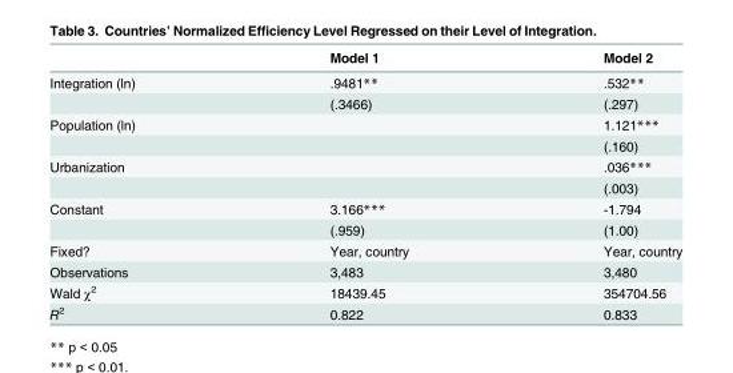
<table><thead><tr><td></td><td>Model 1</td><td>Model 2</td></tr></thead><tbody><tr><td rowspan="2">Integration (ln)</td><td>.9481**</td><td>.532**</td></tr><tr><td>(.3466)</td><td>(.297)</td></tr><tr><td rowspan="2">Population (ln)</td><td></td><td>1.121***</td></tr><tr><td></td><td>(.160)</td></tr><tr><td rowspan="2">Urbanization</td><td></td><td>.036***</td></tr><tr><td></td><td>(.003)</td></tr><tr><td rowspan="2">Constant</td><td>3.166***</td><td>-1.794</td></tr><tr><td>(.959)</td><td>(1.00)</td></tr><tr><td>Fixed?</td><td>Year, country</td><td>Year, country</td></tr><tr><td>Observations</td><td>3,483</td><td>3,480</td></tr><tr><td>Wald χ<sup>2</sup></td><td>18439.45</td><td>354704.56</td></tr><tr><td>R<sup>2</sup></td><td>0.822</td><td>0.833</td></tr></tbody></table>